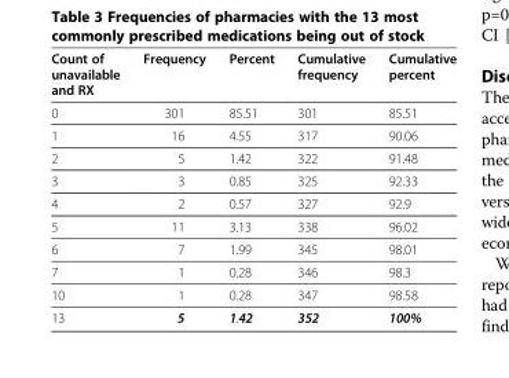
<table><thead><tr><td>Count of unavailable and RX</td><td>Frequency</td><td>Percent</td><td>Cumulative frequency</td><td>Cumulative percent</td></tr></thead><tbody><tr><td>0</td><td>301</td><td>85.51</td><td>301</td><td>85.51</td></tr><tr><td>1</td><td>16</td><td>4.55</td><td>317</td><td>90.06</td></tr><tr><td>2</td><td>5</td><td>1.42</td><td>322</td><td>91.48</td></tr><tr><td>3</td><td>3</td><td>0.85</td><td>325</td><td>92.33</td></tr><tr><td>4</td><td>2</td><td>0.57</td><td>327</td><td>92.9</td></tr><tr><td>5</td><td>11</td><td>3.13</td><td>338</td><td>96.02</td></tr><tr><td>6</td><td>7</td><td>1.99</td><td>345</td><td>98.01</td></tr><tr><td>7</td><td>1</td><td>0.28</td><td>346</td><td>98.3</td></tr><tr><td>10</td><td>1</td><td>0.28</td><td>347</td><td>98.58</td></tr><tr><td>13</td><td>5</td><td>1.42</td><td>352</td><td>100%</td></tr></tbody></table>